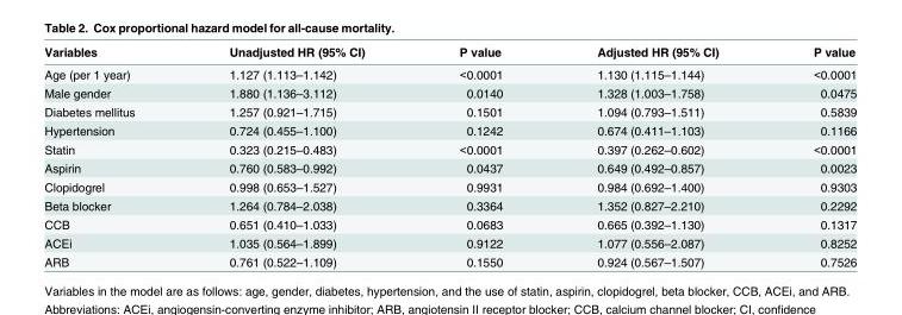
<table><thead><tr><td>Variables</td><td>Unadjusted HR (95% CI)</td><td>P value</td><td>Adjusted HR (95% CI)</td><td>P value</td></tr></thead><tbody><tr><td>Age (per 1 year)</td><td>1.127 (1.113–1.142)</td><td>&lt;0.0001</td><td>1.130 (1.115–1.144)</td><td>&lt;0.0001</td></tr><tr><td>Male gender</td><td>1.880 (1.136–3.112)</td><td>0.0140</td><td>1.328 (1.003–1.758)</td><td>0.0475</td></tr><tr><td>Diabetes mellitus</td><td>1.257 (0.921–1.715)</td><td>0.1501</td><td>1.094 (0.793–1.511)</td><td>0.5839</td></tr><tr><td>Hypertension</td><td>0.724 (0.455–1.100)</td><td>0.1242</td><td>0.674 (0.411–1.103)</td><td>0.1166</td></tr><tr><td>Statin</td><td>0.323 (0.215–0.483)</td><td>&lt;0.0001</td><td>0.397 (0.262–0.602)</td><td>&lt;0.0001</td></tr><tr><td>Aspirin</td><td>0.760 (0.583–0.992)</td><td>0.0437</td><td>0.649 (0.492–0.857)</td><td>0.0023</td></tr><tr><td>Clopidogrel</td><td>0.998 (0.653–1.527)</td><td>0.9931</td><td>0.984 (0.692–1.400)</td><td>0.9303</td></tr><tr><td>Beta blocker</td><td>1.264 (0.784–2.038)</td><td>0.3364</td><td>1.352 (0.827–2.210)</td><td>0.2292</td></tr><tr><td>CCB</td><td>0.651 (0.410–1.033)</td><td>0.0683</td><td>0.665 (0.392–1.130)</td><td>0.1317</td></tr><tr><td>ACEi</td><td>1.035 (0.564–1.899)</td><td>0.9122</td><td>1.077 (0.556–2.087)</td><td>0.8252</td></tr><tr><td>ARB</td><td>0.761 (0.522–1.109)</td><td>0.1550</td><td>0.924 (0.567–1.507)</td><td>0.7526</td></tr></tbody></table>